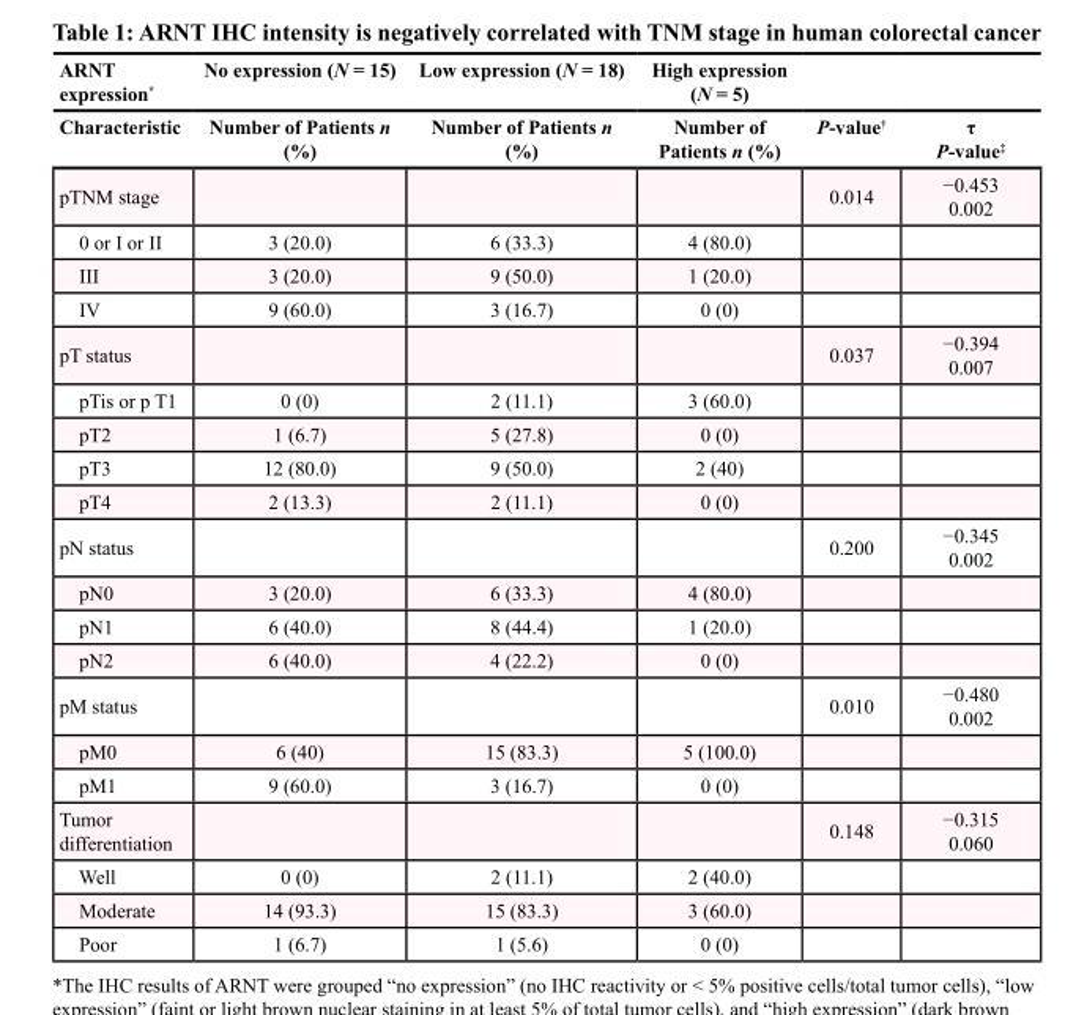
<table><thead><tr><td rowspan="2">ARNT expression* Characteristic</td><td rowspan="2">No expression (N = 15) Number of Patients n (%)</td><td rowspan="2">Low expression (N = 18) Number of Patients n (%)</td><td rowspan="2">High expression (N = 5) Number of Patients n (%)</td><td rowspan="2">P-value<sup>†</sup></td><td rowspan="2">τ P-value<sup>‡</sup></td></tr><tr></tr></thead><tbody><tr><td>pTNM stage</td><td></td><td></td><td></td><td>0.014</td><td>−0.453 0.002</td></tr><tr><td>0 or I or II</td><td>3 (20.0)</td><td>6 (33.3)</td><td>4 (80.0)</td><td></td><td></td></tr><tr><td>III</td><td>3 (20.0)</td><td>9 (50.0)</td><td>1 (20.0)</td><td></td><td></td></tr><tr><td>IV</td><td>9 (60.0)</td><td>3 (16.7)</td><td>0 (0)</td><td></td><td></td></tr><tr><td>pT status</td><td></td><td></td><td></td><td>0.037</td><td>−0.394 0.007</td></tr><tr><td>pTis or p T1</td><td>0 (0)</td><td>2 (11.1)</td><td>3 (60.0)</td><td></td><td></td></tr><tr><td>pT2</td><td>1 (6.7)</td><td>5 (27.8)</td><td>0 (0)</td><td></td><td></td></tr><tr><td>pT3</td><td>12 (80.0)</td><td>9 (50.0)</td><td>2 (40)</td><td></td><td></td></tr><tr><td>pT4</td><td>2 (13.3)</td><td>2 (11.1)</td><td>0 (0)</td><td></td><td></td></tr><tr><td>pN status</td><td></td><td></td><td></td><td>0.200</td><td>−0.345 0.002</td></tr><tr><td>pN0</td><td>3 (20.0)</td><td>6 (33.3)</td><td>4 (80.0)</td><td></td><td></td></tr><tr><td>pN1</td><td>6 (40.0)</td><td>8 (44.4)</td><td>1 (20.0)</td><td></td><td></td></tr><tr><td>pN2</td><td>6 (40.0)</td><td>4 (22.2)</td><td>0 (0)</td><td></td><td></td></tr><tr><td>pM status</td><td></td><td></td><td></td><td>0.010</td><td>−0.480 0.002</td></tr><tr><td>pM0</td><td>6 (40)</td><td>15 (83.3)</td><td>5 (100.0)</td><td></td><td></td></tr><tr><td>pM1</td><td>9 (60.0)</td><td>3 (16.7)</td><td>0 (0)</td><td></td><td></td></tr><tr><td>Tumor differentiation</td><td></td><td></td><td></td><td>0.148</td><td>−0.315 0.060</td></tr><tr><td>Well</td><td>0 (0)</td><td>2 (11.1)</td><td>2 (40.0)</td><td></td><td></td></tr><tr><td>Moderate</td><td>14 (93.3)</td><td>15 (83.3)</td><td>3 (60.0)</td><td></td><td></td></tr><tr><td>Poor</td><td>1 (6.7)</td><td>1 (5.6)</td><td>0 (0)</td><td></td><td></td></tr></tbody></table>